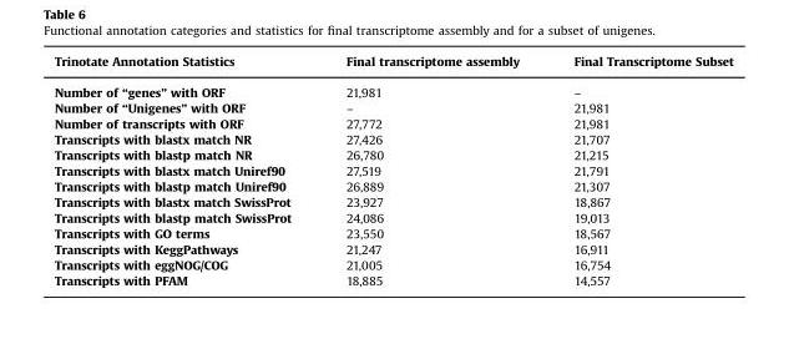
<table><thead><tr><td>Trinotate Annotation Statistics</td><td>Final transcriptome assembly</td><td>Final Transcriptome Subset</td></tr></thead><tbody><tr><td>Number of “genes” with ORF</td><td>21,981</td><td>–</td></tr><tr><td>Number of “Unigenes” with ORF</td><td>–</td><td>21,981</td></tr><tr><td>Number of transcripts with ORF</td><td>27,772</td><td>21,981</td></tr><tr><td>Transcripts with blastx match NR</td><td>27,426</td><td>21,707</td></tr><tr><td>Transcripts with blastp match NR</td><td>26,780</td><td>21,215</td></tr><tr><td>Transcripts with blastx match Uniref90</td><td>27,519</td><td>21,791</td></tr><tr><td>Transcripts with blastp match Uniref90</td><td>26,889</td><td>21,307</td></tr><tr><td>Transcripts with blastx match SwissProt</td><td>23,927</td><td>18,867</td></tr><tr><td>Transcripts with blastp match SwissProt</td><td>24,086</td><td>19,013</td></tr><tr><td>Transcripts with GO terms</td><td>23,550</td><td>18,567</td></tr><tr><td>Transcripts with KeggPathways</td><td>21,247</td><td>16,911</td></tr><tr><td>Transcripts with eggNOG/COG</td><td>21,005</td><td>16,754</td></tr><tr><td>Transcripts with PFAM</td><td>18,885</td><td>14,557</td></tr></tbody></table>